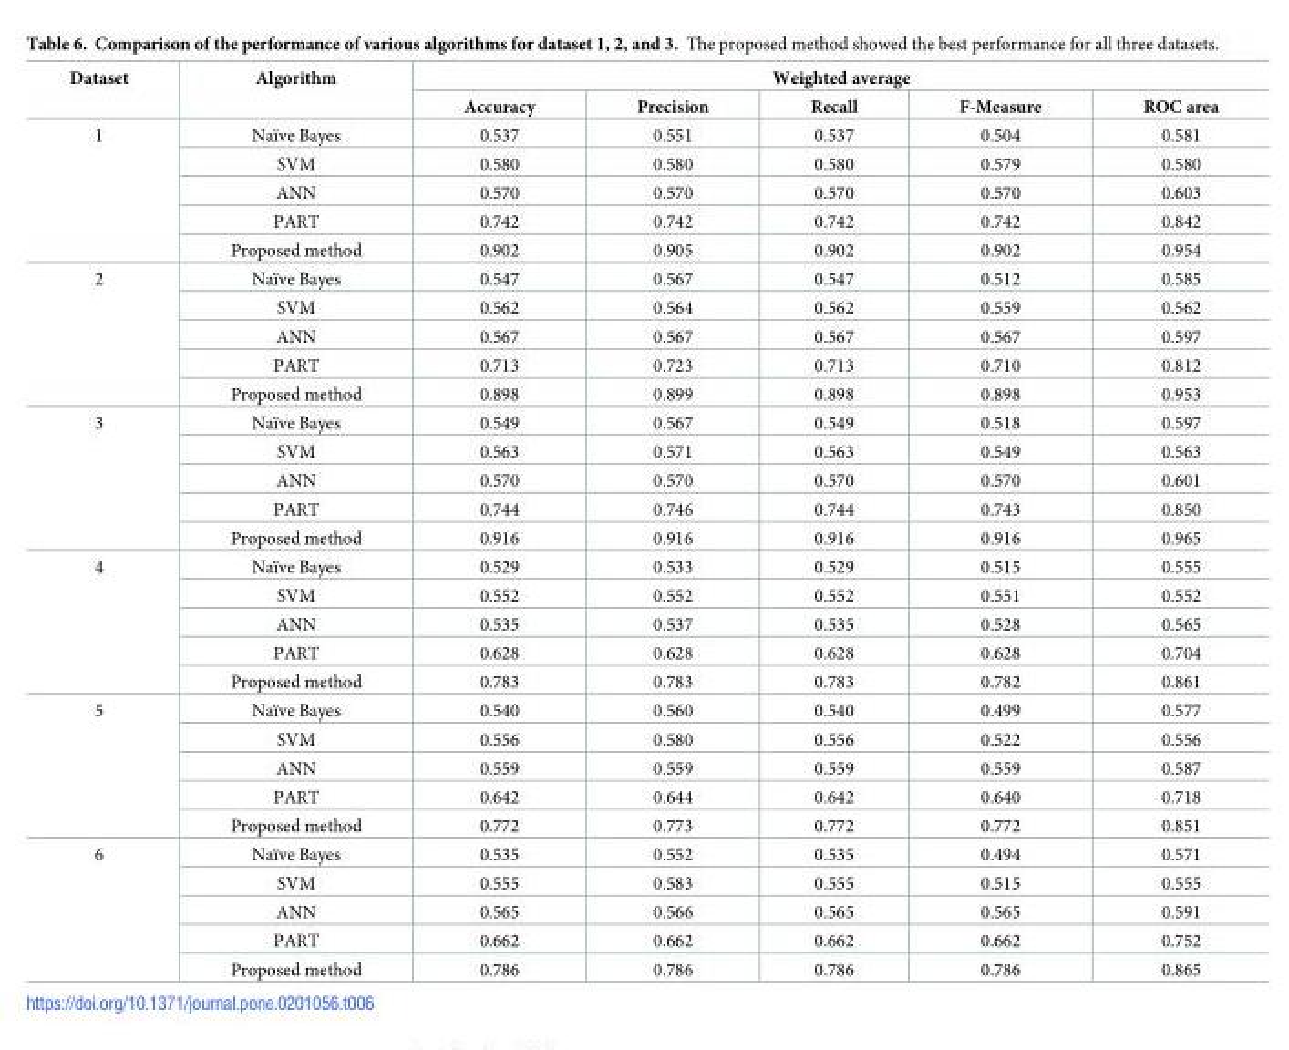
<table><thead><tr><td rowspan="2">Dataset</td><td rowspan="2">Algorithm</td><td colspan="5">Weighted average</td></tr><tr><td>Accuracy</td><td>Precision</td><td>Recall</td><td>F-Measure</td><td>ROC area</td></tr></thead><tbody><tr><td rowspan="5">1</td><td>Naïve Bayes</td><td>0.537</td><td>0.551</td><td>0.537</td><td>0.504</td><td>0.581</td></tr><tr><td>SVM</td><td>0.580</td><td>0.580</td><td>0.580</td><td>0.579</td><td>0.580</td></tr><tr><td>ANN</td><td>0.570</td><td>0.570</td><td>0.570</td><td>0.570</td><td>0.603</td></tr><tr><td>PART</td><td>0.742</td><td>0.742</td><td>0.742</td><td>0.742</td><td>0.842</td></tr><tr><td>Proposed method</td><td>0.902</td><td>0.905</td><td>0.902</td><td>0.902</td><td>0.954</td></tr><tr><td rowspan="5">2</td><td>Naïve Bayes</td><td>0.547</td><td>0.567</td><td>0.547</td><td>0.512</td><td>0.585</td></tr><tr><td>SVM</td><td>0.562</td><td>0.564</td><td>0.562</td><td>0.559</td><td>0.562</td></tr><tr><td>ANN</td><td>0.567</td><td>0.567</td><td>0.567</td><td>0.567</td><td>0.597</td></tr><tr><td>PART</td><td>0.713</td><td>0.723</td><td>0.713</td><td>0.710</td><td>0.812</td></tr><tr><td>Proposed method</td><td>0.898</td><td>0.899</td><td>0.898</td><td>0.898</td><td>0.953</td></tr><tr><td rowspan="5">3</td><td>Naïve Bayes</td><td>0.549</td><td>0.567</td><td>0.549</td><td>0.518</td><td>0.597</td></tr><tr><td>SVM</td><td>0.563</td><td>0.571</td><td>0.563</td><td>0.549</td><td>0.563</td></tr><tr><td>ANN</td><td>0.570</td><td>0.570</td><td>0.570</td><td>0.570</td><td>0.601</td></tr><tr><td>PART</td><td>0.744</td><td>0.746</td><td>0.744</td><td>0.743</td><td>0.850</td></tr><tr><td>Proposed method</td><td>0.916</td><td>0.916</td><td>0.916</td><td>0.916</td><td>0.965</td></tr><tr><td rowspan="5">4</td><td>Naïve Bayes</td><td>0.529</td><td>0.533</td><td>0.529</td><td>0.515</td><td>0.555</td></tr><tr><td>SVM</td><td>0.552</td><td>0.552</td><td>0.552</td><td>0.551</td><td>0.552</td></tr><tr><td>ANN</td><td>0.535</td><td>0.537</td><td>0.535</td><td>0.528</td><td>0.565</td></tr><tr><td>PART</td><td>0.628</td><td>0.628</td><td>0.628</td><td>0.628</td><td>0.704</td></tr><tr><td>Proposed method</td><td>0.783</td><td>0.783</td><td>0.783</td><td>0.782</td><td>0.861</td></tr><tr><td rowspan="5">5</td><td>Naïve Bayes</td><td>0.540</td><td>0.560</td><td>0.540</td><td>0.499</td><td>0.577</td></tr><tr><td>SVM</td><td>0.556</td><td>0.580</td><td>0.556</td><td>0.522</td><td>0.556</td></tr><tr><td>ANN</td><td>0.559</td><td>0.559</td><td>0.559</td><td>0.559</td><td>0.587</td></tr><tr><td>PART</td><td>0.642</td><td>0.644</td><td>0.642</td><td>0.640</td><td>0.718</td></tr><tr><td>Proposed method</td><td>0.772</td><td>0.773</td><td>0.772</td><td>0.772</td><td>0.851</td></tr><tr><td rowspan="5">6</td><td>Naïve Bayes</td><td>0.535</td><td>0.552</td><td>0.535</td><td>0.494</td><td>0.571</td></tr><tr><td>SVM</td><td>0.555</td><td>0.583</td><td>0.555</td><td>0.515</td><td>0.555</td></tr><tr><td>ANN</td><td>0.565</td><td>0.566</td><td>0.565</td><td>0.565</td><td>0.591</td></tr><tr><td>PART</td><td>0.662</td><td>0.662</td><td>0.662</td><td>0.662</td><td>0.752</td></tr><tr><td>Proposed method</td><td>0.786</td><td>0.786</td><td>0.786</td><td>0.786</td><td>0.865</td></tr></tbody></table>